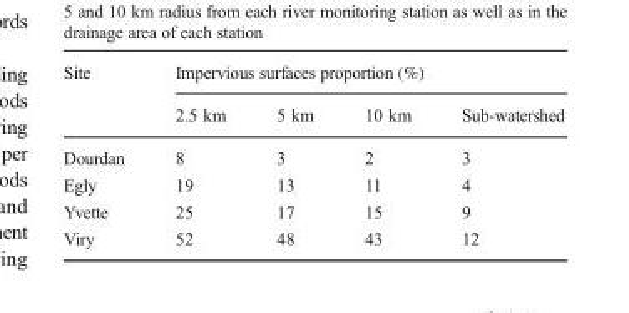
<table><thead><tr><td rowspan="2">Site</td><td colspan="4">Impervious surfaces proportion (%)</td></tr><tr><td>2.5 km</td><td>5 km</td><td>10 km</td><td>Sub-watershed</td></tr></thead><tbody><tr><td>Dourdan</td><td>8</td><td>3</td><td>2</td><td>3</td></tr><tr><td>Egly</td><td>19</td><td>13</td><td>11</td><td>4</td></tr><tr><td>Yvette</td><td>25</td><td>17</td><td>15</td><td>9</td></tr><tr><td>Viry</td><td>52</td><td>48</td><td>43</td><td>12</td></tr></tbody></table>